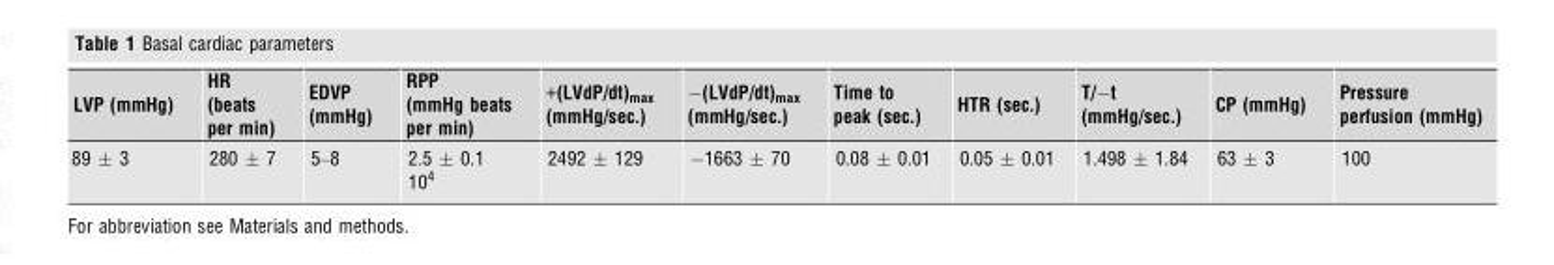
<table><thead><tr><td>LVP (mmHg)</td><td>HR (beats per min)</td><td>EDVP (mmHg)</td><td>RPP (mmHg beats per min)</td><td>+(LVdP/dt)<sub>max</sub> (mmHg/sec.)</td><td>−(LVdP/dt)<sub>max</sub> (mmHg/sec.)</td><td>Time to peak (sec.)</td><td>HTR (sec.)</td><td>T/−t (mmHg/sec.)</td><td>CP (mmHg)</td><td>Pressure perfusion (mmHg)</td></tr></thead><tbody><tr><td>89 ± 3</td><td>280 ± 7</td><td>5–8</td><td>2.5 ± 0.1 10<sup>4</sup></td><td>2492 ± 129</td><td>−1663 ± 70</td><td>0.08 ± 0.01</td><td>0.05 ± 0.01</td><td>1.498 ± 1.84</td><td>63 ± 3</td><td>100</td></tr></tbody></table>